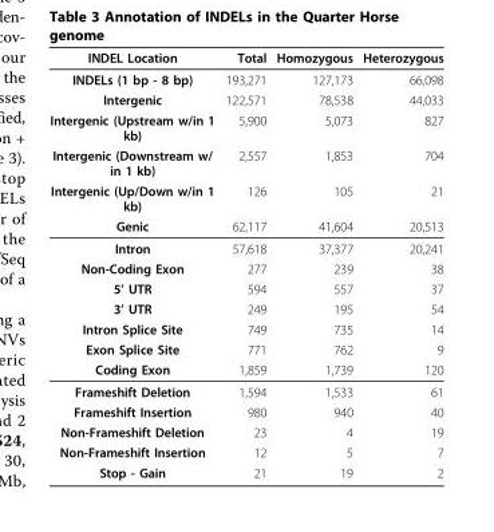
<table><thead><tr><td>INDEL Location</td><td>Total</td><td>Homozygous</td><td>Heterozygous</td></tr></thead><tbody><tr><td>INDELs (1 bp - 8 bp)</td><td>193,271</td><td>127,173</td><td>66,098</td></tr><tr><td>Intergenic</td><td>122,571</td><td>78,538</td><td>44,033</td></tr><tr><td>Intergenic (Upstream w/in 1 kb)</td><td>5,900</td><td>5,073</td><td>827</td></tr><tr><td>Intergenic (Downstream w/ in 1 kb)</td><td>2,557</td><td>1,853</td><td>704</td></tr><tr><td>Intergenic (Up/Down w/in 1 kb)</td><td>126</td><td>105</td><td>21</td></tr><tr><td>Genic</td><td>62,117</td><td>41,604</td><td>20,513</td></tr><tr><td>Intron</td><td>57,618</td><td>37,377</td><td>20,241</td></tr><tr><td>Non-Coding Exon</td><td>277</td><td>239</td><td>38</td></tr><tr><td>5’ UTR</td><td>594</td><td>557</td><td>37</td></tr><tr><td>3’ UTR</td><td>249</td><td>195</td><td>54</td></tr><tr><td>Intron Splice Site</td><td>749</td><td>735</td><td>14</td></tr><tr><td>Exon Splice Site</td><td>771</td><td>762</td><td>9</td></tr><tr><td>Coding Exon</td><td>1,859</td><td>1,739</td><td>120</td></tr><tr><td>Frameshift Deletion</td><td>1,594</td><td>1,533</td><td>61</td></tr><tr><td>Frameshift Insertion</td><td>980</td><td>940</td><td>40</td></tr><tr><td>Non-Frameshift Deletion</td><td>23</td><td>4</td><td>19</td></tr><tr><td>Non-Frameshift Insertion</td><td>12</td><td>5</td><td>7</td></tr><tr><td>Stop - Gain</td><td>21</td><td>19</td><td>2</td></tr></tbody></table>